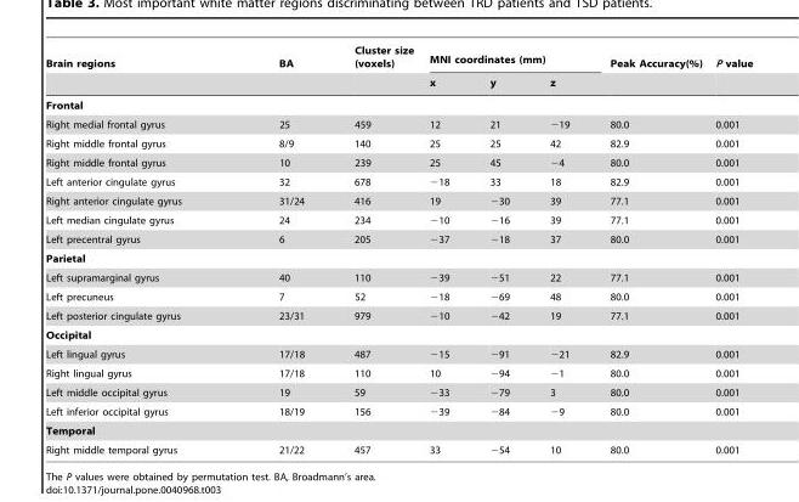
<table><thead><tr><td rowspan="2">Brain regions</td><td rowspan="2">BA</td><td rowspan="2">Cluster size (voxels)</td><td colspan="3">MNI coordinates (mm)</td><td rowspan="2">Peak Accuracy(%)</td><td rowspan="2">P value</td></tr><tr><td>x</td><td>y</td><td>z</td></tr></thead><tbody><tr><td colspan="8">Frontal</td></tr><tr><td>Right medial frontal gyrus</td><td>25</td><td>459</td><td>12</td><td>21</td><td>−19</td><td>80.0</td><td>0.001</td></tr><tr><td>Right middle frontal gyrus</td><td>8/9</td><td>140</td><td>25</td><td>25</td><td>42</td><td>82.9</td><td>0.001</td></tr><tr><td>Right middle frontal gyrus</td><td>10</td><td>239</td><td>25</td><td>45</td><td>−4</td><td>80.0</td><td>0.001</td></tr><tr><td>Left anterior cingulate gyrus</td><td>32</td><td>678</td><td>−18</td><td>33</td><td>18</td><td>82.9</td><td>0.001</td></tr><tr><td>Right anterior cingulate gyrus</td><td>31/24</td><td>416</td><td>19</td><td>−30</td><td>39</td><td>77.1</td><td>0.001</td></tr><tr><td>Left median cingulate gyrus</td><td>24</td><td>234</td><td>−10</td><td>−16</td><td>39</td><td>77.1</td><td>0.001</td></tr><tr><td>Left precentral gyrus</td><td>6</td><td>205</td><td>−37</td><td>−18</td><td>37</td><td>80.0</td><td>0.001</td></tr><tr><td colspan="8">Parietal</td></tr><tr><td>Left supramarginal gyrus</td><td>40</td><td>110</td><td>−39</td><td>−51</td><td>22</td><td>77.1</td><td>0.001</td></tr><tr><td>Left precuneus</td><td>7</td><td>52</td><td>−18</td><td>−69</td><td>48</td><td>80.0</td><td>0.001</td></tr><tr><td>Left posterior cingulate gyrus</td><td>23/31</td><td>979</td><td>−10</td><td>−42</td><td>19</td><td>77.1</td><td>0.001</td></tr><tr><td colspan="8">Occipital</td></tr><tr><td>Left lingual gyrus</td><td>17/18</td><td>487</td><td>−15</td><td>−91</td><td>−21</td><td>82.9</td><td>0.001</td></tr><tr><td>Right lingual gyrus</td><td>17/18</td><td>110</td><td>10</td><td>−94</td><td>−1</td><td>80.0</td><td>0.001</td></tr><tr><td>Left middle occipital gyrus</td><td>19</td><td>59</td><td>−33</td><td>−79</td><td>3</td><td>80.0</td><td>0.001</td></tr><tr><td>Left inferior occipital gyrus</td><td>18/19</td><td>156</td><td>−39</td><td>−84</td><td>−9</td><td>80.0</td><td>0.001</td></tr><tr><td colspan="8">Temporal</td></tr><tr><td>Right middle temporal gyrus</td><td>21/22</td><td>457</td><td>33</td><td>−54</td><td>10</td><td>80.0</td><td>0.001</td></tr></tbody></table>